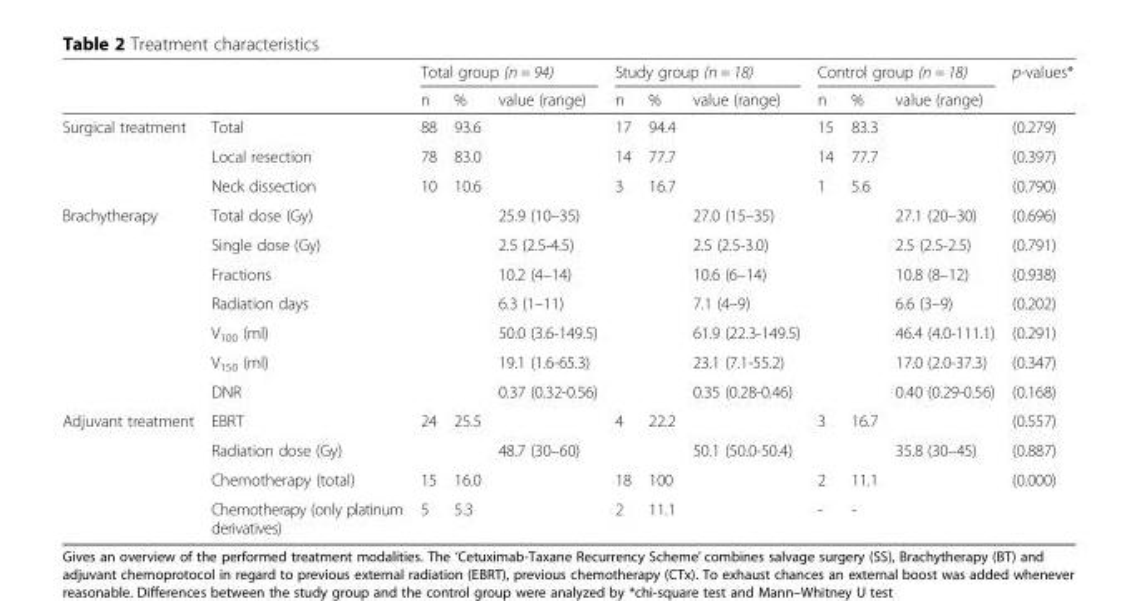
<table><thead><tr><td rowspan="2"></td><td rowspan="2"></td><td colspan="3">Total group (n = 94)</td><td colspan="3">Study group (n = 18)</td><td colspan="3">Control group (n = 18)</td><td rowspan="2">p-values*</td></tr><tr><td>n</td><td>%</td><td>value (range)</td><td>n</td><td>%</td><td>value (range)</td><td>n</td><td>%</td><td>value (range)</td></tr></thead><tbody><tr><td rowspan="3">Surgical treatment</td><td>Total</td><td>88</td><td>93.6</td><td></td><td>17</td><td>94.4</td><td></td><td>15</td><td>83.3</td><td></td><td>(0.279)</td></tr><tr><td>Local resection</td><td>78</td><td>83.0</td><td></td><td>14</td><td>77.7</td><td></td><td>14</td><td>77.7</td><td></td><td>(0.397)</td></tr><tr><td>Neck dissection</td><td>10</td><td>10.6</td><td></td><td>3</td><td>16.7</td><td></td><td>1</td><td>5.6</td><td></td><td>(0.790)</td></tr><tr><td rowspan="7">Brachytherapy</td><td>Total dose (Gy)</td><td></td><td></td><td>25.9 (10–35)</td><td></td><td></td><td>27.0 (15–35)</td><td></td><td></td><td>27.1 (20–30)</td><td>(0.696)</td></tr><tr><td>Single dose (Gy)</td><td></td><td></td><td>2.5 (2.5-4.5)</td><td></td><td></td><td>2.5 (2.5-3.0)</td><td></td><td></td><td>2.5 (2.5-2.5)</td><td>(0.791)</td></tr><tr><td>Fractions</td><td></td><td></td><td>10.2 (4–14)</td><td></td><td></td><td>10.6 (6–14)</td><td></td><td></td><td>10.8 (8–12)</td><td>(0.938)</td></tr><tr><td>Radiation days</td><td></td><td></td><td>6.3 (1–11)</td><td></td><td></td><td>7.1 (4–9)</td><td></td><td></td><td>6.6 (3–9)</td><td>(0.202)</td></tr><tr><td>V<sub>100</sub> (ml)</td><td></td><td></td><td>50.0 (3.6-149.5)</td><td></td><td></td><td>61.9 (22.3-149.5)</td><td></td><td></td><td>46.4 (4.0-111.1)</td><td>(0.291)</td></tr><tr><td>V<sub>150</sub> (ml)</td><td></td><td></td><td>19.1 (1.6-65.3)</td><td></td><td></td><td>23.1 (7.1-55.2)</td><td></td><td></td><td>17.0 (2.0-37.3)</td><td>(0.347)</td></tr><tr><td>DNR</td><td></td><td></td><td>0.37 (0.32-0.56)</td><td></td><td></td><td>0.35 (0.28-0.46)</td><td></td><td></td><td>0.40 (0.29-0.56)</td><td>(0.168)</td></tr><tr><td rowspan="4">Adjuvant treatment</td><td>EBRT</td><td>24</td><td>25.5</td><td></td><td>4</td><td>22.2</td><td></td><td>3</td><td>16.7</td><td></td><td>(0.557)</td></tr><tr><td>Radiation dose (Gy)</td><td></td><td></td><td>48.7 (30–60)</td><td></td><td></td><td>50.1 (50.0-50.4)</td><td></td><td></td><td>35.8 (30–45)</td><td>(0.887)</td></tr><tr><td>Chemotherapy (total)</td><td>15</td><td>16.0</td><td></td><td>18</td><td>100</td><td></td><td>2</td><td>11.1</td><td></td><td>(0.000)</td></tr><tr><td>Chemotherapy (only platinum derivatives)</td><td>5</td><td>5.3</td><td></td><td>2</td><td>11.1</td><td></td><td>-</td><td>-</td><td></td><td></td></tr></tbody></table>